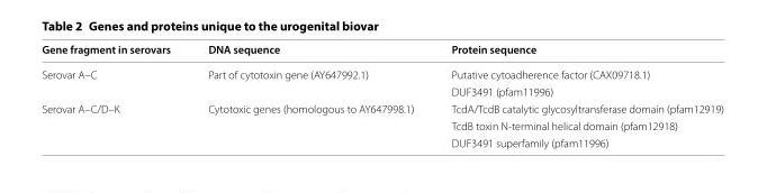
<table><thead><tr><td>Gene fragment in serovars</td><td>DNA sequence</td><td>Protein sequence</td></tr></thead><tbody><tr><td rowspan="2">Serovar A–C</td><td>Part of cytotoxin gene (AY647992.1)</td><td>Putative cytoadherence factor (CAX09718.1)</td></tr><tr><td></td><td>DUF3491 (pfam11996)</td></tr><tr><td rowspan="3">Serovar A–C/D–K</td><td>Cytotoxic genes (homologous to AY647998.1)</td><td>TcdA/TcdB catalytic glycosyltransferase domain (pfam12919)</td></tr><tr><td></td><td>TcdB toxin N-terminal helical domain (pfam12918)</td></tr><tr><td></td><td>DUF3491 superfamily (pfam11996)</td></tr></tbody></table>